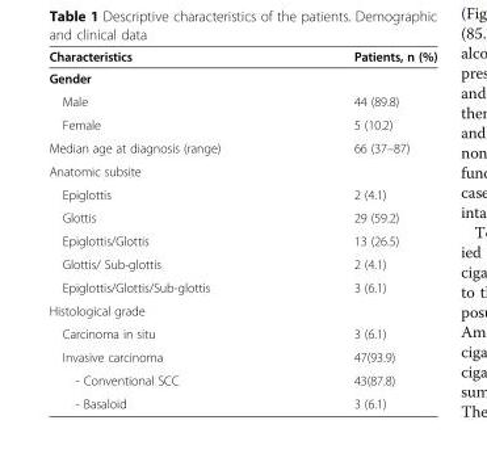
<table><thead><tr><td>Characteristics</td><td>Patients, n (%)</td></tr></thead><tbody><tr><td colspan="2">Gender</td></tr><tr><td>Male</td><td>44 (89.8)</td></tr><tr><td>Female</td><td>5 (10.2)</td></tr><tr><td>Median age at diagnosis (range)</td><td>66 (37–87)</td></tr><tr><td colspan="2">Anatomic subsite</td></tr><tr><td>Epiglottis</td><td>2 (4.1)</td></tr><tr><td>Glottis</td><td>29 (59.2)</td></tr><tr><td>Epiglottis/Glottis</td><td>13 (26.5)</td></tr><tr><td>Glottis/ Sub-glottis</td><td>2 (4.1)</td></tr><tr><td>Epiglottis/Glottis/Sub-glottis</td><td>3 (6.1)</td></tr><tr><td colspan="2">Histological grade</td></tr><tr><td>Carcinoma in situ</td><td>3 (6.1)</td></tr><tr><td>Invasive carcinoma</td><td>47(93.9)</td></tr><tr><td>- Conventional SCC</td><td>43(87.8)</td></tr><tr><td>- Basaloid</td><td>3 (6.1)</td></tr></tbody></table>